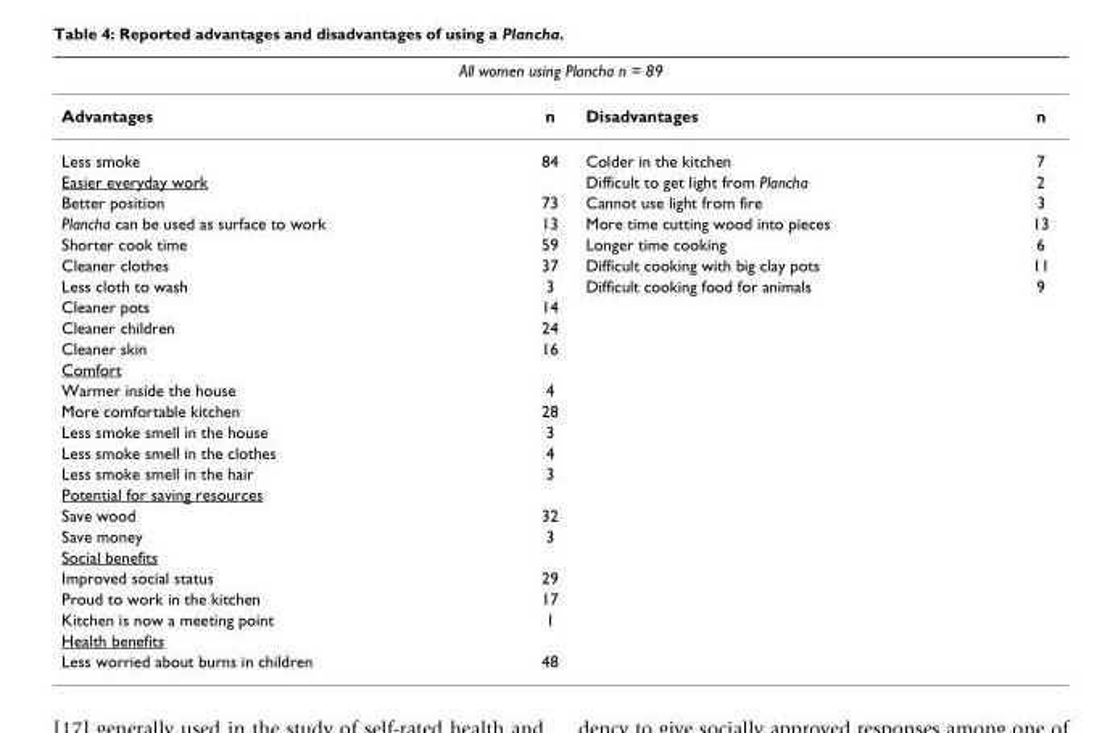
<table><thead><tr><td colspan="4">All women using Plancha n = 89</td></tr><tr><td>Advantages</td><td>n</td><td>Disadvantages</td><td>n</td></tr></thead><tbody><tr><td>Less smoke</td><td>84</td><td>Colder in the kitchen</td><td>7</td></tr><tr><td>Easier everyday work</td><td></td><td>Difficult to get light from Plancha</td><td>2</td></tr><tr><td>Better position</td><td>73</td><td>Cannot use light from fire</td><td>3</td></tr><tr><td>Plancha can be used as surface to work</td><td>13</td><td>More time cutting wood into pieces</td><td>13</td></tr><tr><td>Shorter cook time</td><td>59</td><td>Longer time cooking</td><td>6</td></tr><tr><td>Cleaner clothes</td><td>37</td><td>Difficult cooking with big clay pots</td><td>11</td></tr><tr><td>Less cloth to wash</td><td>3</td><td>Difficult cooking food for animals</td><td>9</td></tr><tr><td>Cleaner pots</td><td>14</td><td></td><td></td></tr><tr><td>Cleaner children</td><td>24</td><td></td><td></td></tr><tr><td>Cleaner skin</td><td>16</td><td></td><td></td></tr><tr><td colspan="4">Comfort</td></tr><tr><td>Warmer inside the house</td><td>4</td><td></td><td></td></tr><tr><td>More comfortable kitchen</td><td>28</td><td></td><td></td></tr><tr><td>Less smoke smell in the house</td><td>3</td><td></td><td></td></tr><tr><td>Less smoke smell in the clothes</td><td>4</td><td></td><td></td></tr><tr><td>Less smoke smell in the hair</td><td>3</td><td></td><td></td></tr><tr><td colspan="4">Potential for saving resources</td></tr><tr><td>Save wood</td><td>32</td><td></td><td></td></tr><tr><td>Save money</td><td>3</td><td></td><td></td></tr><tr><td colspan="4">Social benefits</td></tr><tr><td>Improved social status</td><td>29</td><td></td><td></td></tr><tr><td>Proud to work in the kitchen</td><td>17</td><td></td><td></td></tr><tr><td>Kitchen is now a meeting point</td><td>1</td><td></td><td></td></tr><tr><td colspan="4">Health benefits</td></tr><tr><td>Less worried about burns in children</td><td>48</td><td></td><td></td></tr></tbody></table>